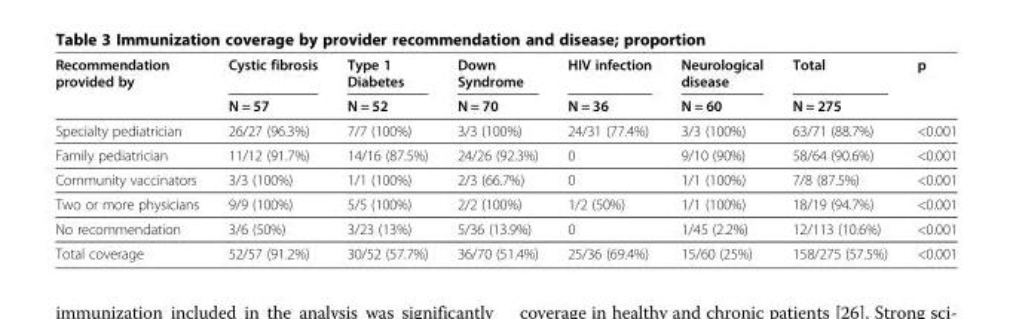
<table><thead><tr><td rowspan="2">Recommendation provided by</td><td rowspan="2">Cystic fibrosis N = 57</td><td rowspan="2">Type 1 Diabetes N = 52</td><td rowspan="2">Down Syndrome N = 70</td><td rowspan="2">HIV infection N = 36</td><td rowspan="2">Neurological disease N = 60</td><td rowspan="2">Total N = 275</td><td rowspan="2">p</td></tr><tr></tr></thead><tbody><tr><td>Specialty pediatrician</td><td>26/27 (96.3%)</td><td>7/7 (100%)</td><td>3/3 (100%)</td><td>24/31 (77.4%)</td><td>3/3 (100%)</td><td>63/71 (88.7%)</td><td>&lt;0.001</td></tr><tr><td>Family pediatrician</td><td>11/12 (91.7%)</td><td>14/16 (87.5%)</td><td>24/26 (92.3%)</td><td>0</td><td>9/10 (90%)</td><td>58/64 (90.6%)</td><td>&lt;0.001</td></tr><tr><td>Community vaccinators</td><td>3/3 (100%)</td><td>1/1 (100%)</td><td>2/3 (66.7%)</td><td>0</td><td>1/1 (100%)</td><td>7/8 (87.5%)</td><td>&lt;0.001</td></tr><tr><td>Two or more physicians</td><td>9/9 (100%)</td><td>5/5 (100%)</td><td>2/2 (100%)</td><td>1/2 (50%)</td><td>1/1 (100%)</td><td>18/19 (94.7%)</td><td>&lt;0.001</td></tr><tr><td>No recommendation</td><td>3/6 (50%)</td><td>3/23 (13%)</td><td>5/36 (13.9%)</td><td>0</td><td>1/45 (2.2%)</td><td>12/113 (10.6%)</td><td>&lt;0.001</td></tr><tr><td>Total coverage</td><td>52/57 (91.2%)</td><td>30/52 (57.7%)</td><td>36/70 (51.4%)</td><td>25/36 (69.4%)</td><td>15/60 (25%)</td><td>158/275 (57.5%)</td><td>&lt;0.001</td></tr></tbody></table>